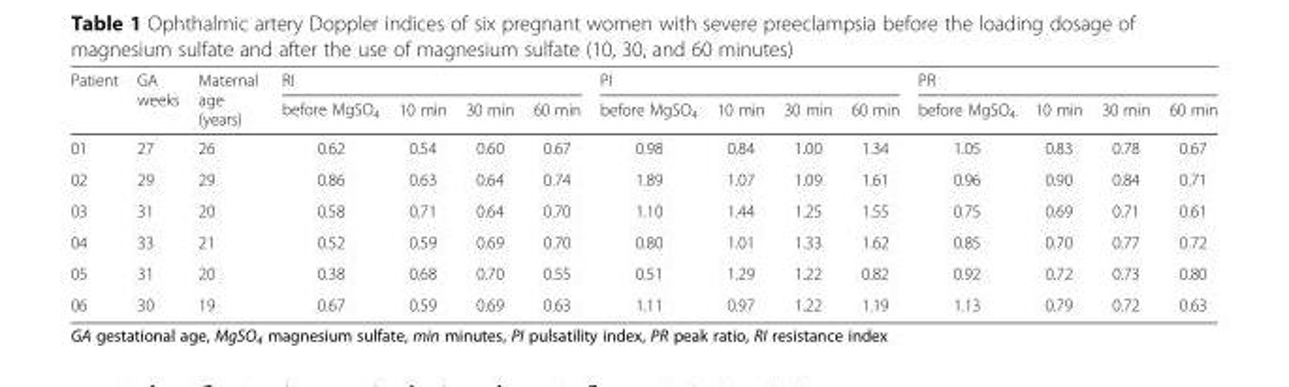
<table><thead><tr><td rowspan="2">Patient</td><td rowspan="2">GA weeks</td><td rowspan="2">Maternal age (years)</td><td colspan="4">RI</td><td colspan="4">PI</td><td colspan="4">PR</td></tr><tr><td>before MgSO<sub>4</sub></td><td>10 min</td><td>30 min</td><td>60 min</td><td>before MgSO<sub>4</sub></td><td>10 min</td><td>30 min</td><td>60 min</td><td>before MgSO<sub>4</sub></td><td>10 min</td><td>30 min</td><td>60 min</td></tr></thead><tbody><tr><td>01</td><td>27</td><td>26</td><td>0.62</td><td>0.54</td><td>0.60</td><td>0.67</td><td>0.98</td><td>0.84</td><td>1.00</td><td>1.34</td><td>1.05</td><td>0.83</td><td>0.78</td><td>0.67</td></tr><tr><td>02</td><td>29</td><td>29</td><td>0.86</td><td>0.63</td><td>0.64</td><td>0.74</td><td>1.89</td><td>1.07</td><td>1.09</td><td>1.61</td><td>0.96</td><td>0.90</td><td>0.84</td><td>0.71</td></tr><tr><td>03</td><td>31</td><td>20</td><td>0.58</td><td>0.71</td><td>0.64</td><td>0.70</td><td>1.10</td><td>1.44</td><td>1.25</td><td>1.55</td><td>0.75</td><td>0.69</td><td>0.71</td><td>0.61</td></tr><tr><td>04</td><td>33</td><td>21</td><td>0.52</td><td>0.59</td><td>0.69</td><td>0.70</td><td>0.80</td><td>1.01</td><td>1.33</td><td>1.62</td><td>0.85</td><td>0.70</td><td>0.77</td><td>0.72</td></tr><tr><td>05</td><td>31</td><td>20</td><td>0.38</td><td>0.68</td><td>0.70</td><td>0.55</td><td>0.51</td><td>1.29</td><td>1.22</td><td>0.82</td><td>0.92</td><td>0.72</td><td>0.73</td><td>0.80</td></tr><tr><td>06</td><td>30</td><td>19</td><td>0.67</td><td>0.59</td><td>0.69</td><td>0.63</td><td>1.11</td><td>0.97</td><td>1.22</td><td>1.19</td><td>1.13</td><td>0.79</td><td>0.72</td><td>0.63</td></tr></tbody></table>